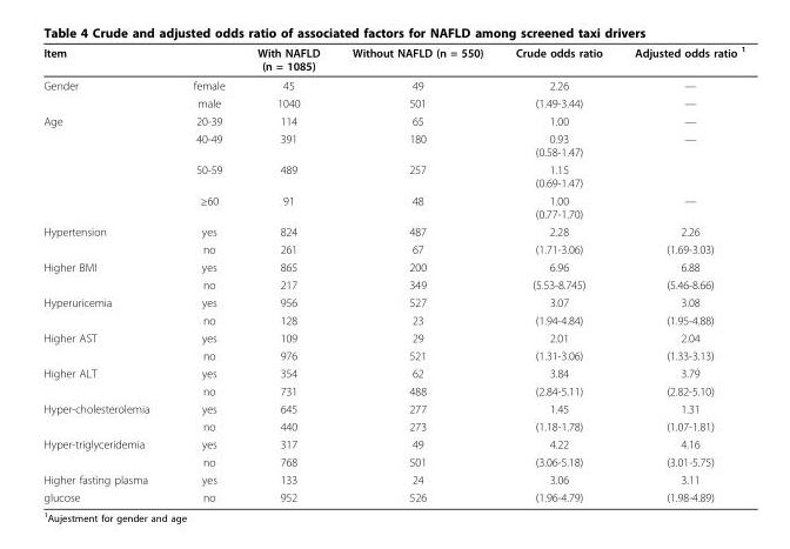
<table><thead><tr><td>Item</td><td></td><td>With NAFLD (n = 1085)</td><td>Without NAFLD (n = 550)</td><td>Crude odds ratio</td><td>Adjusted odds ratio <sup>1</sup></td></tr></thead><tbody><tr><td rowspan="2">Gender</td><td>female</td><td>45</td><td>49</td><td>2.26</td><td>—</td></tr><tr><td>male</td><td>1040</td><td>501</td><td>(1.49-3.44)</td><td>—</td></tr><tr><td rowspan="4">Age</td><td>20-39</td><td>114</td><td>65</td><td>1.00</td><td>—</td></tr><tr><td>40-49</td><td>391</td><td>180</td><td>0.93 (0.58-1.47)</td><td>—</td></tr><tr><td>50-59</td><td>489</td><td>257</td><td>1.15 (0.69-1.47)</td><td></td></tr><tr><td>≥60</td><td>91</td><td>48</td><td>1.00 (0.77-1.70)</td><td>—</td></tr><tr><td rowspan="2">Hypertension</td><td>yes</td><td>824</td><td>487</td><td>2.28</td><td>2.26</td></tr><tr><td>no</td><td>261</td><td>67</td><td>(1.71-3.06)</td><td>(1.69-3.03)</td></tr><tr><td rowspan="2">Higher BMI</td><td>yes</td><td>865</td><td>200</td><td>6.96</td><td>6.88</td></tr><tr><td>no</td><td>217</td><td>349</td><td>(5.53-8.745)</td><td>(5.46-8.66)</td></tr><tr><td rowspan="2">Hyperuricemia</td><td>yes</td><td>956</td><td>527</td><td>3.07</td><td>3.08</td></tr><tr><td>no</td><td>128</td><td>23</td><td>(1.94-4.84)</td><td>(1.95-4.88)</td></tr><tr><td rowspan="2">Higher AST</td><td>yes</td><td>109</td><td>29</td><td>2.01</td><td>2.04</td></tr><tr><td>no</td><td>976</td><td>521</td><td>(1.31-3.06)</td><td>(1.33-3.13)</td></tr><tr><td rowspan="2">Higher ALT</td><td>yes</td><td>354</td><td>62</td><td>3.84</td><td>3.79</td></tr><tr><td>no</td><td>731</td><td>488</td><td>(2.84-5.11)</td><td>(2.82-5.10)</td></tr><tr><td rowspan="2">Hyper-cholesterolemia</td><td>yes</td><td>645</td><td>277</td><td>1.45</td><td>1.31</td></tr><tr><td>no</td><td>440</td><td>273</td><td>(1.18-1.78)</td><td>(1.07-1.81)</td></tr><tr><td rowspan="2">Hyper-triglyceridemia</td><td>yes</td><td>317</td><td>49</td><td>4.22</td><td>4.16</td></tr><tr><td>no</td><td>768</td><td>501</td><td>(3.06-5.18)</td><td>(3.01-5.75)</td></tr><tr><td>Higher fasting plasma</td><td>yes</td><td>133</td><td>24</td><td>3.06</td><td>3.11</td></tr><tr><td>glucose</td><td>no</td><td>952</td><td>526</td><td>(1.96-4.79)</td><td>(1.98-4.89)</td></tr></tbody></table>